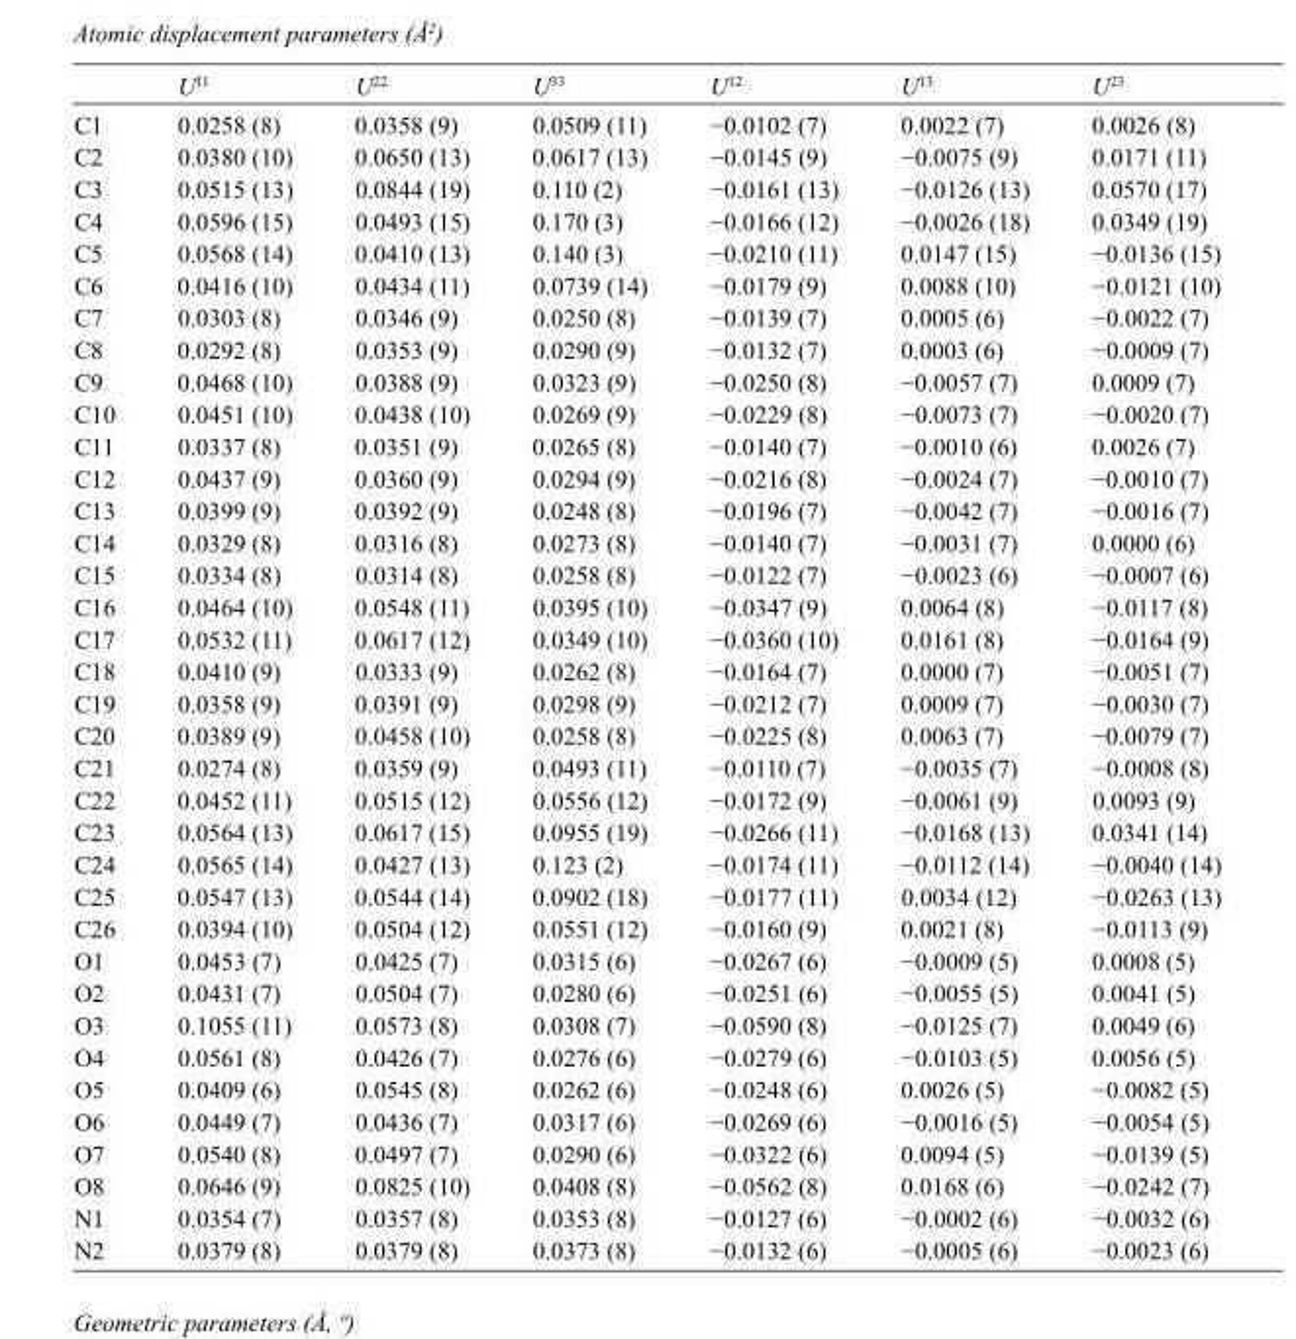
<table><thead><tr><td></td><td>U<sup>11</sup></td><td>U<sup>22</sup></td><td>U<sup>33</sup></td><td>U<sup>12</sup></td><td>U<sup>13</sup></td><td>U<sup>23</sup></td></tr></thead><tbody><tr><td>C1</td><td>0.0258 (8)</td><td>0.0358 (9)</td><td>0.0509 (11)</td><td>−0.0102 (7)</td><td>0.0022 (7)</td><td>0.0026 (8)</td></tr><tr><td>C2</td><td>0.0380 (10)</td><td>0.0650 (13)</td><td>0.0617 (13)</td><td>−0.0145 (9)</td><td>−0.0075 (9)</td><td>0.0171 (11)</td></tr><tr><td>C3</td><td>0.0515 (13)</td><td>0.0844 (19)</td><td>0.110 (2)</td><td>−0.0161 (13)</td><td>−0.0126 (13)</td><td>0.0570 (17)</td></tr><tr><td>C4</td><td>0.0596 (15)</td><td>0.0493 (15)</td><td>0.170 (3)</td><td>−0.0166 (12)</td><td>−0.0026 (18)</td><td>0.0349 (19)</td></tr><tr><td>C5</td><td>0.0568 (14)</td><td>0.0410 (13)</td><td>0.140 (3)</td><td>−0.0210 (11)</td><td>0.0147 (15)</td><td>−0.0136 (15)</td></tr><tr><td>C6</td><td>0.0416 (10)</td><td>0.0434 (11)</td><td>0.0739 (14)</td><td>−0.0179 (9)</td><td>0.0088 (10)</td><td>−0.0121 (10)</td></tr><tr><td>C7</td><td>0.0303 (8)</td><td>0.0346 (9)</td><td>0.0250 (8)</td><td>−0.0139 (7)</td><td>0.0005 (6)</td><td>−0.0022 (7)</td></tr><tr><td>C8</td><td>0.0292 (8)</td><td>0.0353 (9)</td><td>0.0290 (9)</td><td>−0.0132 (7)</td><td>0.0003 (6)</td><td>−0.0009 (7)</td></tr><tr><td>C9</td><td>0.0468 (10)</td><td>0.0388 (9)</td><td>0.0323 (9)</td><td>−0.0250 (8)</td><td>−0.0057 (7)</td><td>0.0009 (7)</td></tr><tr><td>C10</td><td>0.0451 (10)</td><td>0.0438 (10)</td><td>0.0269 (9)</td><td>−0.0229 (8)</td><td>−0.0073 (7)</td><td>−0.0020 (7)</td></tr><tr><td>C11</td><td>0.0337 (8)</td><td>0.0351 (9)</td><td>0.0265 (8)</td><td>−0.0140 (7)</td><td>−0.0010 (6)</td><td>0.0026 (7)</td></tr><tr><td>C12</td><td>0.0437 (9)</td><td>0.0360 (9)</td><td>0.0294 (9)</td><td>−0.0216 (8)</td><td>−0.0024 (7)</td><td>−0.0010 (7)</td></tr><tr><td>C13</td><td>0.0399 (9)</td><td>0.0392 (9)</td><td>0.0248 (8)</td><td>−0.0196 (7)</td><td>−0.0042 (7)</td><td>−0.0016 (7)</td></tr><tr><td>C14</td><td>0.0329 (8)</td><td>0.0316 (8)</td><td>0.0273 (8)</td><td>−0.0140 (7)</td><td>−0.0031 (7)</td><td>0.0000 (6)</td></tr><tr><td>C15</td><td>0.0334 (8)</td><td>0.0314 (8)</td><td>0.0258 (8)</td><td>−0.0122 (7)</td><td>−0.0023 (6)</td><td>−0.0007 (6)</td></tr><tr><td>C16</td><td>0.0464 (10)</td><td>0.0548 (11)</td><td>0.0395 (10)</td><td>−0.0347 (9)</td><td>0.0064 (8)</td><td>−0.0117 (8)</td></tr><tr><td>C17</td><td>0.0532 (11)</td><td>0.0617 (12)</td><td>0.0349 (10)</td><td>−0.0360 (10)</td><td>0.0161 (8)</td><td>−0.0164 (9)</td></tr><tr><td>C18</td><td>0.0410 (9)</td><td>0.0333 (9)</td><td>0.0262 (8)</td><td>−0.0164 (7)</td><td>0.0000 (7)</td><td>−0.0051 (7)</td></tr><tr><td>C19</td><td>0.0358 (9)</td><td>0.0391 (9)</td><td>0.0298 (9)</td><td>−0.0212 (7)</td><td>0.0009 (7)</td><td>−0.0030 (7)</td></tr><tr><td>C20</td><td>0.0389 (9)</td><td>0.0458 (10)</td><td>0.0258 (8)</td><td>−0.0225 (8)</td><td>0.0063 (7)</td><td>−0.0079 (7)</td></tr><tr><td>C21</td><td>0.0274 (8)</td><td>0.0359 (9)</td><td>0.0493 (11)</td><td>−0.0110 (7)</td><td>−0.0035 (7)</td><td>−0.0008 (8)</td></tr><tr><td>C22</td><td>0.0452 (11)</td><td>0.0515 (12)</td><td>0.0556 (12)</td><td>−0.0172 (9)</td><td>−0.0061 (9)</td><td>0.0093 (9)</td></tr><tr><td>C23</td><td>0.0564 (13)</td><td>0.0617 (15)</td><td>0.0955 (19)</td><td>−0.0266 (11)</td><td>−0.0168 (13)</td><td>0.0341 (14)</td></tr><tr><td>C24</td><td>0.0565 (14)</td><td>0.0427 (13)</td><td>0.123 (2)</td><td>−0.0174 (11)</td><td>−0.0112 (14)</td><td>−0.0040 (14)</td></tr><tr><td>C25</td><td>0.0547 (13)</td><td>0.0544 (14)</td><td>0.0902 (18)</td><td>−0.0177 (11)</td><td>0.0034 (12)</td><td>−0.0263 (13)</td></tr><tr><td>C26</td><td>0.0394 (10)</td><td>0.0504 (12)</td><td>0.0551 (12)</td><td>−0.0160 (9)</td><td>0.0021 (8)</td><td>−0.0113 (9)</td></tr><tr><td>O1</td><td>0.0453 (7)</td><td>0.0425 (7)</td><td>0.0315 (6)</td><td>−0.0267 (6)</td><td>−0.0009 (5)</td><td>0.0008 (5)</td></tr><tr><td>O2</td><td>0.0431 (7)</td><td>0.0504 (7)</td><td>0.0280 (6)</td><td>−0.0251 (6)</td><td>−0.0055 (5)</td><td>0.0041 (5)</td></tr><tr><td>O3</td><td>0.1055 (11)</td><td>0.0573 (8)</td><td>0.0308 (7)</td><td>−0.0590 (8)</td><td>−0.0125 (7)</td><td>0.0049 (6)</td></tr><tr><td>O4</td><td>0.0561 (8)</td><td>0.0426 (7)</td><td>0.0276 (6)</td><td>−0.0279 (6)</td><td>−0.0103 (5)</td><td>0.0056 (5)</td></tr><tr><td>O5</td><td>0.0409 (6)</td><td>0.0545 (8)</td><td>0.0262 (6)</td><td>−0.0248 (6)</td><td>0.0026 (5)</td><td>−0.0082 (5)</td></tr><tr><td>O6</td><td>0.0449 (7)</td><td>0.0436 (7)</td><td>0.0317 (6)</td><td>−0.0269 (6)</td><td>−0.0016 (5)</td><td>−0.0054 (5)</td></tr><tr><td>O7</td><td>0.0540 (8)</td><td>0.0497 (7)</td><td>0.0290 (6)</td><td>−0.0322 (6)</td><td>0.0094 (5)</td><td>−0.0139 (5)</td></tr><tr><td>O8</td><td>0.0646 (9)</td><td>0.0825 (10)</td><td>0.0408 (8)</td><td>−0.0562 (8)</td><td>0.0168 (6)</td><td>−0.0242 (7)</td></tr><tr><td>N1</td><td>0.0354 (7)</td><td>0.0357 (8)</td><td>0.0353 (8)</td><td>−0.0127 (6)</td><td>−0.0002 (6)</td><td>−0.0032 (6)</td></tr><tr><td>N2</td><td>0.0379 (8)</td><td>0.0379 (8)</td><td>0.0373 (8)</td><td>−0.0132 (6)</td><td>−0.0005 (6)</td><td>−0.0023 (6)</td></tr></tbody></table>